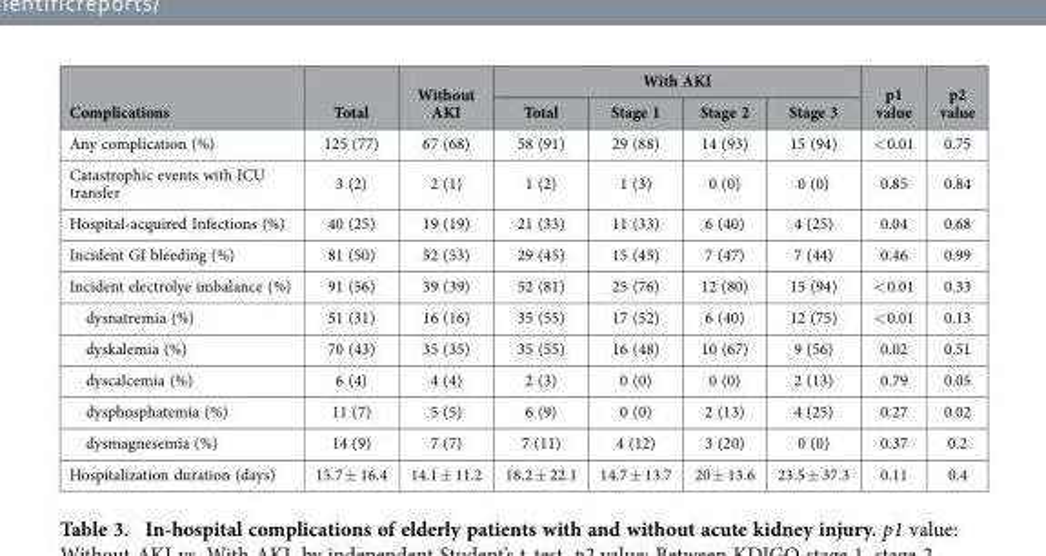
<table><thead><tr><td rowspan="2">Complications</td><td rowspan="2">Total</td><td rowspan="2">Without AKI</td><td colspan="4">With AKI</td><td rowspan="2">p1 value</td><td rowspan="2">p2 value</td></tr><tr><td>Total</td><td>Stage 1</td><td>Stage 2</td><td>Stage 3</td></tr></thead><tbody><tr><td>Any complication (%)</td><td>125 (77)</td><td>67 (68)</td><td>58 (91)</td><td>29 (88)</td><td>14 (93)</td><td>15 (94)</td><td>&lt; 0.01</td><td>0.75</td></tr><tr><td>Catastrophic events with ICU transfer</td><td>3 (2)</td><td>2 (1)</td><td>1 (2)</td><td>1 (3)</td><td>0 (0)</td><td>0 (0)</td><td>0.85</td><td>0.84</td></tr><tr><td>Hospital-acquired Infections (%)</td><td>40 (25)</td><td>19 (19)</td><td>21 (33)</td><td>11 (33)</td><td>6 (40)</td><td>4 (25)</td><td>0.04</td><td>0.68</td></tr><tr><td>Incident GI bleeding (%)</td><td>81 (50)</td><td>52 (53)</td><td>29 (45)</td><td>15 (45)</td><td>7 (47)</td><td>7 (44)</td><td>0.46</td><td>0.99</td></tr><tr><td>Incident electrolye imbalance (%)</td><td>91 (56)</td><td>39 (39)</td><td>52 (81)</td><td>25 (76)</td><td>12 (80)</td><td>15 (94)</td><td>&lt; 0.01</td><td>0.33</td></tr><tr><td>dysnatremia (%)</td><td>51 (31)</td><td>16 (16)</td><td>35 (55)</td><td>17 (52)</td><td>6 (40)</td><td>12 (75)</td><td>&lt; 0.01</td><td>0.13</td></tr><tr><td>dyskalemia (%)</td><td>70 (43)</td><td>35 (35)</td><td>35 (55)</td><td>16 (48)</td><td>10 (67)</td><td>9 (56)</td><td>0.02</td><td>0.51</td></tr><tr><td>dyscalcemia (%)</td><td>6 (4)</td><td>4 (4)</td><td>2 (3)</td><td>0 (0)</td><td>0 (0)</td><td>2 (13)</td><td>0.79</td><td>0.05</td></tr><tr><td>dysphosphatemia (%)</td><td>11 (7)</td><td>5 (5)</td><td>6 (9)</td><td>0 (0)</td><td>2 (13)</td><td>4 (25)</td><td>0.27</td><td>0.02</td></tr><tr><td>dysmagnesemia (%)</td><td>14 (9)</td><td>7 (7)</td><td>7 (11)</td><td>4 (12)</td><td>3 (20)</td><td>0 (0)</td><td>0.37</td><td>0.2</td></tr><tr><td>Hospitalization duration (days)</td><td>15.7 ± 16.4</td><td>14.1 ± 11.2</td><td>18.2 ± 22.1</td><td>14.7 ± 13.7</td><td>20 ± 13.6</td><td>23.5 ± 37.3</td><td>0.11</td><td>0.4</td></tr></tbody></table>